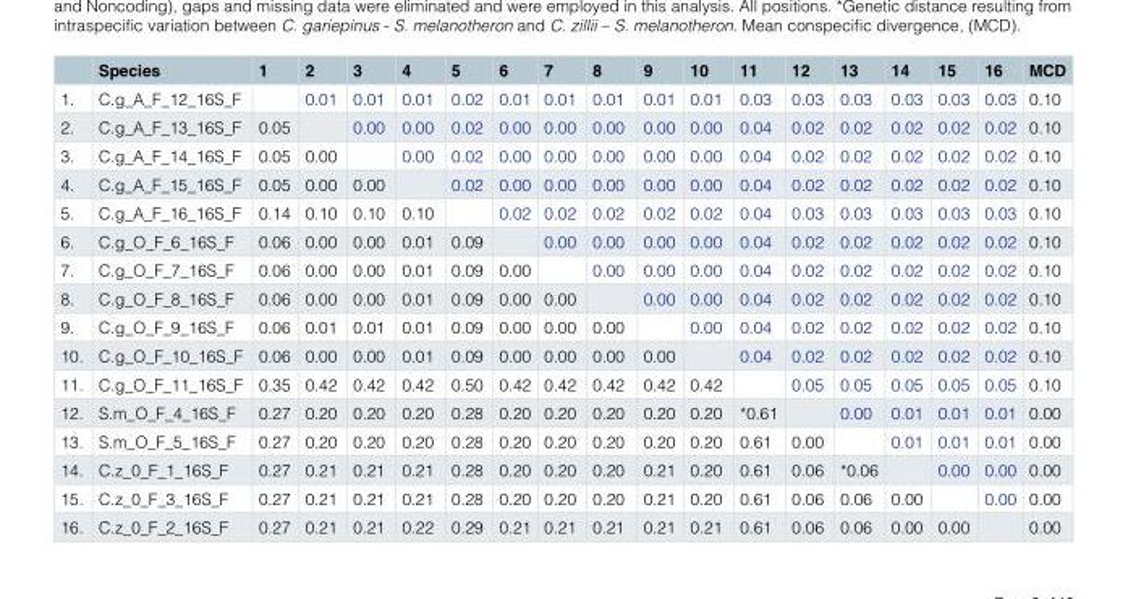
<table><thead><tr><td></td><td>Species</td><td>1</td><td>2</td><td>3</td><td>4</td><td>5</td><td>6</td><td>7</td><td>8</td><td>9</td><td>10</td><td>11</td><td>12</td><td>13</td><td>14</td><td>15</td><td>16</td><td>MCD</td></tr></thead><tbody><tr><td>1.</td><td>C.g_A_F_12_16S_F</td><td></td><td>0.01</td><td>0.01</td><td>0.01</td><td>0.02</td><td>0.01</td><td>0.01</td><td>0.01</td><td>0.01</td><td>0.01</td><td>0.03</td><td>0.03</td><td>0.03</td><td>0.03</td><td>0.03</td><td>0.03</td><td>0.10</td></tr><tr><td>2.</td><td>C.g_A_F_13_16S_F</td><td>0.05</td><td></td><td>0.00</td><td>0.00</td><td>0.02</td><td>0.00</td><td>0.00</td><td>0.00</td><td>0.00</td><td>0.00</td><td>0.04</td><td>0.02</td><td>0.02</td><td>0.02</td><td>0.02</td><td>0.02</td><td>0.10</td></tr><tr><td>3.</td><td>C.g_A_F_14_16S_F</td><td>0.05</td><td>0.00</td><td></td><td>0.00</td><td>0.02</td><td>0.00</td><td>0.00</td><td>0.00</td><td>0.00</td><td>0.00</td><td>0.04</td><td>0.02</td><td>0.02</td><td>0.02</td><td>0.02</td><td>0.02</td><td>0.10</td></tr><tr><td>4.</td><td>C.g_A_F_15_16S_F</td><td>0.05</td><td>0.00</td><td>0.00</td><td></td><td>0.02</td><td>0.00</td><td>0.00</td><td>0.00</td><td>0.00</td><td>0.00</td><td>0.04</td><td>0.02</td><td>0.02</td><td>0.02</td><td>0.02</td><td>0.02</td><td>0.10</td></tr><tr><td>5.</td><td>C.g_A_F_16_16S_F</td><td>0.14</td><td>0.10</td><td>0.10</td><td>0.10</td><td></td><td>0.02</td><td>0.02</td><td>0.02</td><td>0.02</td><td>0.02</td><td>0.04</td><td>0.03</td><td>0.03</td><td>0.03</td><td>0.03</td><td>0.03</td><td>0.10</td></tr><tr><td>6.</td><td>C.g_O_F_6_16S_F</td><td>0.06</td><td>0.00</td><td>0.00</td><td>0.01</td><td>0.09</td><td></td><td>0.00</td><td>0.00</td><td>0.00</td><td>0.00</td><td>0.04</td><td>0.02</td><td>0.02</td><td>0.02</td><td>0.02</td><td>0.02</td><td>0.10</td></tr><tr><td>7.</td><td>C.g_O_F_7_16S_F</td><td>0.06</td><td>0.00</td><td>0.00</td><td>0.01</td><td>0.09</td><td>0.00</td><td></td><td>0.00</td><td>0.00</td><td>0.00</td><td>0.04</td><td>0.02</td><td>0.02</td><td>0.02</td><td>0.02</td><td>0.02</td><td>0.10</td></tr><tr><td>8.</td><td>C.g_O_F_8_16S_F</td><td>0.06</td><td>0.00</td><td>0.00</td><td>0.01</td><td>0.09</td><td>0.00</td><td>0.00</td><td></td><td>0.00</td><td>0.00</td><td>0.04</td><td>0.02</td><td>0.02</td><td>0.02</td><td>0.02</td><td>0.02</td><td>0.10</td></tr><tr><td>9.</td><td>C.g_O_F_9_16S_F</td><td>0.06</td><td>0.01</td><td>0.01</td><td>0.01</td><td>0.09</td><td>0.00</td><td>0.00</td><td>0.00</td><td></td><td>0.00</td><td>0.04</td><td>0.02</td><td>0.02</td><td>0.02</td><td>0.02</td><td>0.02</td><td>0.10</td></tr><tr><td>10.</td><td>C.g_O_F_10_16S_F</td><td>0.06</td><td>0.00</td><td>0.00</td><td>0.01</td><td>0.09</td><td>0.00</td><td>0.00</td><td>0.00</td><td>0.00</td><td></td><td>0.04</td><td>0.02</td><td>0.02</td><td>0.02</td><td>0.02</td><td>0.02</td><td>0.10</td></tr><tr><td>11.</td><td>C.g_O_F_11_16S_F</td><td>0.35</td><td>0.42</td><td>0.42</td><td>0.42</td><td>0.50</td><td>0.42</td><td>0.42</td><td>0.42</td><td>0.42</td><td>0.42</td><td></td><td>0.05</td><td>0.05</td><td>0.05</td><td>0.05</td><td>0.05</td><td>0.10</td></tr><tr><td>12.</td><td>S.m_O_F_4_16S_F</td><td>0.27</td><td>0.20</td><td>0.20</td><td>0.20</td><td>0.28</td><td>0.20</td><td>0.20</td><td>0.20</td><td>0.20</td><td>0.20</td><td>*0.61</td><td></td><td>0.00</td><td>0.01</td><td>0.01</td><td>0.01</td><td>0.00</td></tr><tr><td>13.</td><td>S.m_O_F_5_16S_F</td><td>0.27</td><td>0.20</td><td>0.20</td><td>0.20</td><td>0.28</td><td>0.20</td><td>0.20</td><td>0.20</td><td>0.20</td><td>0.20</td><td>0.61</td><td>0.00</td><td></td><td>0.01</td><td>0.01</td><td>0.01</td><td>0.00</td></tr><tr><td>14.</td><td>C.z_0_F_1_16S_F</td><td>0.27</td><td>0.21</td><td>0.21</td><td>0.21</td><td>0.28</td><td>0.20</td><td>0.20</td><td>0.20</td><td>0.21</td><td>0.20</td><td>0.61</td><td>0.06</td><td>*0.06</td><td></td><td>0.00</td><td>0.00</td><td>0.00</td></tr><tr><td>15.</td><td>C.z_0_F_3_16S_F</td><td>0.27</td><td>0.21</td><td>0.21</td><td>0.21</td><td>0.28</td><td>0.20</td><td>0.20</td><td>0.20</td><td>0.21</td><td>0.20</td><td>0.61</td><td>0.06</td><td>0.06</td><td>0.00</td><td></td><td>0.00</td><td>0.00</td></tr><tr><td>16.</td><td>C.z_0_F_2_16S_F</td><td>0.27</td><td>0.21</td><td>0.21</td><td>0.22</td><td>0.29</td><td>0.21</td><td>0.21</td><td>0.21</td><td>0.21</td><td>0.21</td><td>0.61</td><td>0.06</td><td>0.06</td><td>0.00</td><td>0.00</td><td></td><td>0.00</td></tr></tbody></table>